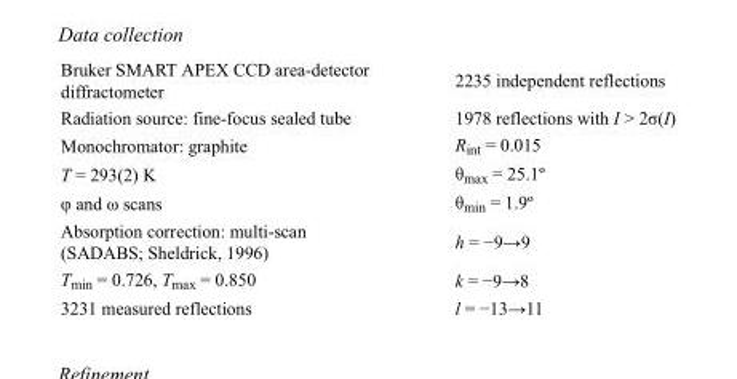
<table><tbody><tr><td>Bruker SMART APEX CCD area-detector diffractometer</td><td>2235 independent reflections</td></tr><tr><td>Radiation source: fine-focus sealed tube</td><td>1978 reflections with I &gt; 2σ(I)</td></tr><tr><td>Monochromator: graphite</td><td>R<sub>int</sub> = 0.015</td></tr><tr><td>T = 293(2) K</td><td>θ<sub>max</sub> = 25.1º</td></tr><tr><td>φ and ω scans</td><td>θ<sub>min</sub> = 1.9º</td></tr><tr><td>Absorption correction: multi-scan (SADABS; Sheldrick, 1996)</td><td>h = −9→9</td></tr><tr><td>T<sub>min</sub> = 0.726, T<sub>max</sub> = 0.850</td><td>k = −9→8</td></tr><tr><td>3231 measured reflections</td><td>l = −13→11</td></tr></tbody></table>